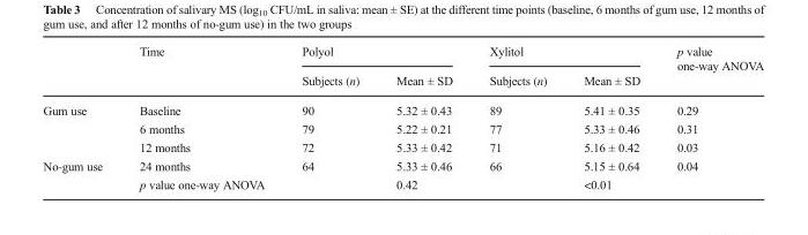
<table><thead><tr><td rowspan="2"></td><td rowspan="2">Time</td><td colspan="2">Polyol</td><td colspan="2">Xylitol</td><td rowspan="2">p value one-way ANOVA</td></tr><tr><td>Subjects (n)</td><td>Mean ± SD</td><td>Subjects (n)</td><td>Mean ± SD</td></tr></thead><tbody><tr><td rowspan="3">Gum use</td><td>Baseline</td><td>90</td><td>5.32 ± 0.43</td><td>89</td><td>5.41 ± 0.35</td><td>0.29</td></tr><tr><td>6 months</td><td>79</td><td>5.22 ± 0.21</td><td>77</td><td>5.33 ± 0.46</td><td>0.31</td></tr><tr><td>12 months</td><td>72</td><td>5.33 ± 0.42</td><td>71</td><td>5.16 ± 0.42</td><td>0.03</td></tr><tr><td rowspan="2">No-gum use</td><td>24 months</td><td>64</td><td>5.33 ± 0.46</td><td>66</td><td>5.15 ± 0.64</td><td>0.04</td></tr><tr><td>p value one-way ANOVA</td><td></td><td>0.42</td><td></td><td>&lt;0.01</td><td></td></tr></tbody></table>